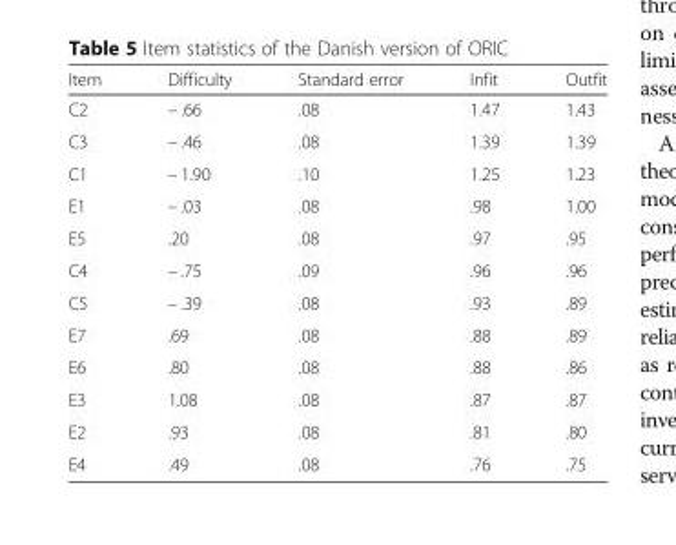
<table><thead><tr><td>Item</td><td>Difficulty</td><td>Standard error</td><td>Infit</td><td>Outfit</td></tr></thead><tbody><tr><td>C2</td><td>– .66</td><td>.08</td><td>1.47</td><td>1.43</td></tr><tr><td>C3</td><td>– .46</td><td>.08</td><td>1.39</td><td>1.39</td></tr><tr><td>C1</td><td>– 1.90</td><td>.10</td><td>1.25</td><td>1.23</td></tr><tr><td>E1</td><td>– .03</td><td>.08</td><td>.98</td><td>1.00</td></tr><tr><td>E5</td><td>.20</td><td>.08</td><td>.97</td><td>.95</td></tr><tr><td>C4</td><td>– .75</td><td>.09</td><td>.96</td><td>.96</td></tr><tr><td>C5</td><td>– .39</td><td>.08</td><td>.93</td><td>.89</td></tr><tr><td>E7</td><td>.69</td><td>.08</td><td>.88</td><td>.89</td></tr><tr><td>E6</td><td>.80</td><td>.08</td><td>.88</td><td>.86</td></tr><tr><td>E3</td><td>1.08</td><td>.08</td><td>.87</td><td>.87</td></tr><tr><td>E2</td><td>.93</td><td>.08</td><td>.81</td><td>.80</td></tr><tr><td>E4</td><td>.49</td><td>.08</td><td>.76</td><td>.75</td></tr></tbody></table>